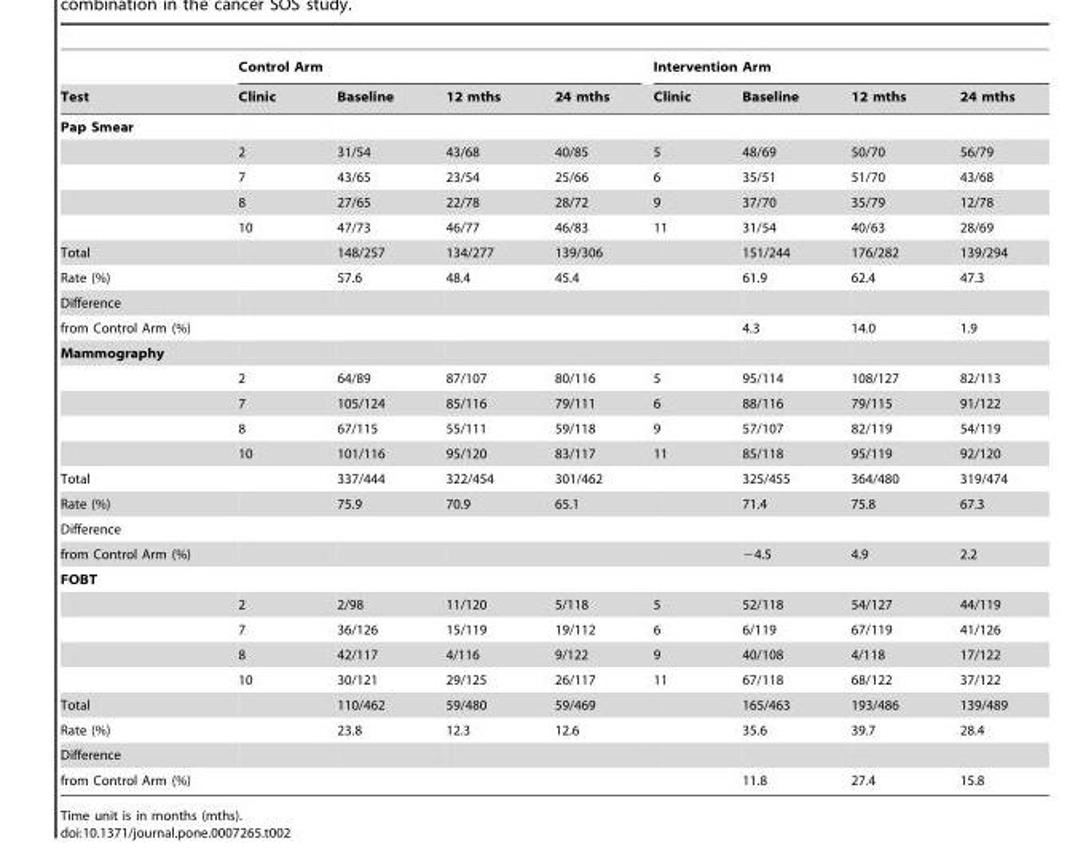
<table><thead><tr><td rowspan="2">Test</td><td colspan="4">Control Arm</td><td colspan="4">Intervention Arm</td></tr><tr><td>Clinic</td><td>Baseline</td><td>12 mths</td><td>24 mths</td><td>Clinic</td><td>Baseline</td><td>12 mths</td><td>24 mths</td></tr></thead><tbody><tr><td colspan="9">Pap Smear</td></tr><tr><td></td><td>2</td><td>31/54</td><td>43/68</td><td>40/85</td><td>5</td><td>48/69</td><td>50/70</td><td>56/79</td></tr><tr><td></td><td>7</td><td>43/65</td><td>23/54</td><td>25/66</td><td>6</td><td>35/51</td><td>51/70</td><td>43/68</td></tr><tr><td></td><td>8</td><td>27/65</td><td>22/78</td><td>28/72</td><td>9</td><td>37/70</td><td>35/79</td><td>12/78</td></tr><tr><td></td><td>10</td><td>47/73</td><td>46/77</td><td>46/83</td><td>11</td><td>31/54</td><td>40/63</td><td>28/69</td></tr><tr><td>Total</td><td></td><td>148/257</td><td>134/277</td><td>139/306</td><td></td><td>151/244</td><td>176/282</td><td>139/294</td></tr><tr><td>Rate (%)</td><td></td><td>57.6</td><td>48.4</td><td>45.4</td><td></td><td>61.9</td><td>62.4</td><td>47.3</td></tr><tr><td colspan="9">Difference</td></tr><tr><td>from Control Arm (%)</td><td></td><td></td><td></td><td></td><td></td><td>4.3</td><td>14.0</td><td>1.9</td></tr><tr><td colspan="9">Mammography</td></tr><tr><td></td><td>2</td><td>64/89</td><td>87/107</td><td>80/116</td><td>5</td><td>95/114</td><td>108/127</td><td>82/113</td></tr><tr><td></td><td>7</td><td>105/124</td><td>85/116</td><td>79/111</td><td>6</td><td>88/116</td><td>79/115</td><td>91/122</td></tr><tr><td></td><td>8</td><td>67/115</td><td>55/111</td><td>59/118</td><td>9</td><td>57/107</td><td>82/119</td><td>54/119</td></tr><tr><td></td><td>10</td><td>101/116</td><td>95/120</td><td>83/117</td><td>11</td><td>85/118</td><td>95/119</td><td>92/120</td></tr><tr><td>Total</td><td></td><td>337/444</td><td>322/454</td><td>301/462</td><td></td><td>325/455</td><td>364/480</td><td>319/474</td></tr><tr><td>Rate (%)</td><td></td><td>75.9</td><td>70.9</td><td>65.1</td><td></td><td>71.4</td><td>75.8</td><td>67.3</td></tr><tr><td colspan="9">Difference</td></tr><tr><td>from Control Arm (%)</td><td></td><td></td><td></td><td></td><td></td><td>−4.5</td><td>4.9</td><td>2.2</td></tr><tr><td colspan="9">FOBT</td></tr><tr><td></td><td>2</td><td>2/98</td><td>11/120</td><td>5/118</td><td>5</td><td>52/118</td><td>54/127</td><td>44/119</td></tr><tr><td></td><td>7</td><td>36/126</td><td>15/119</td><td>19/112</td><td>6</td><td>6/119</td><td>67/119</td><td>41/126</td></tr><tr><td></td><td>8</td><td>42/117</td><td>4/116</td><td>9/122</td><td>9</td><td>40/108</td><td>4/118</td><td>17/122</td></tr><tr><td></td><td>10</td><td>30/121</td><td>29/125</td><td>26/117</td><td>11</td><td>67/118</td><td>68/122</td><td>37/122</td></tr><tr><td>Total</td><td></td><td>110/462</td><td>59/480</td><td>59/469</td><td></td><td>165/463</td><td>193/486</td><td>139/489</td></tr><tr><td>Rate (%)</td><td></td><td>23.8</td><td>12.3</td><td>12.6</td><td></td><td>35.6</td><td>39.7</td><td>28.4</td></tr><tr><td colspan="9">Difference</td></tr><tr><td>from Control Arm (%)</td><td></td><td></td><td></td><td></td><td></td><td>11.8</td><td>27.4</td><td>15.8</td></tr></tbody></table>